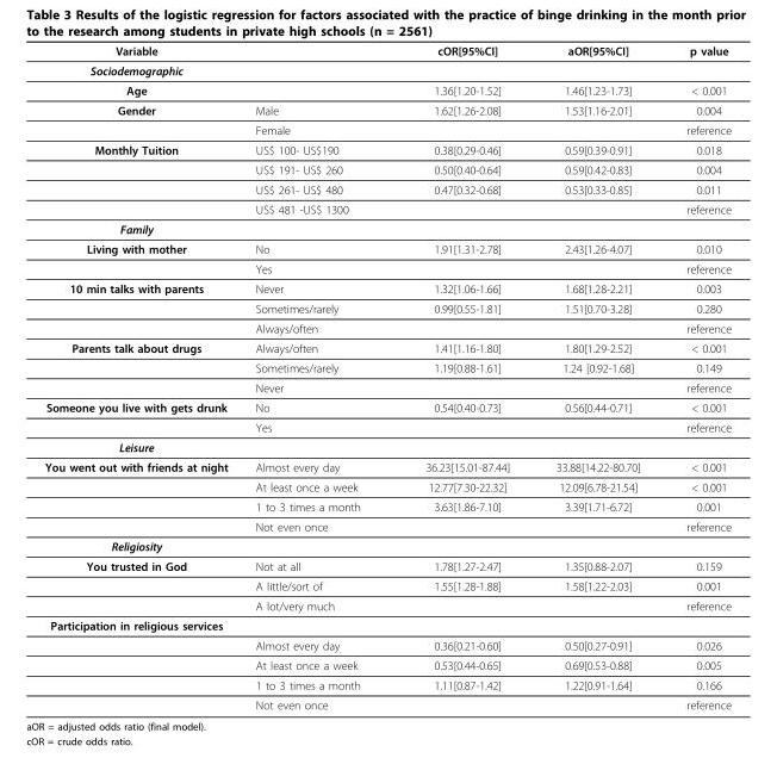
<table><thead><tr><td>Variable</td><td></td><td>cOR[95%CI]</td><td>aOR[95%CI]</td><td>p value</td></tr></thead><tbody><tr><td colspan="5">Sociodemographic</td></tr><tr><td>Age</td><td></td><td>1.36[1.20-1.52]</td><td>1.46[1.23-1.73]</td><td>&lt; 0.001</td></tr><tr><td rowspan="2">Gender</td><td>Male</td><td>1.62[1.26-2.08]</td><td>1.53[1.16-2.01]</td><td>0.004</td></tr><tr><td>Female</td><td></td><td></td><td>reference</td></tr><tr><td rowspan="4">Monthly Tuition</td><td>US$ 100- US$190</td><td>0.38[0.29-0.46]</td><td>0.59[0.39-0.91]</td><td>0.018</td></tr><tr><td>US$ 191- US$ 260</td><td>0.50[0.40-0.64]</td><td>0.59[0.42-0.83]</td><td>0.004</td></tr><tr><td>US$ 261- US$ 480</td><td>0.47[0.32-0.68]</td><td>0.53[0.33-0.85]</td><td>0.011</td></tr><tr><td>US$ 481 -US$ 1300</td><td></td><td></td><td>reference</td></tr><tr><td colspan="5">Family</td></tr><tr><td rowspan="2">Living with mother</td><td>No</td><td>1.91[1.31-2.78]</td><td>2.43[1.26-4.07]</td><td>0.010</td></tr><tr><td>Yes</td><td></td><td></td><td>reference</td></tr><tr><td rowspan="3">10 min talks with parents</td><td>Never</td><td>1.32[1.06-1.66]</td><td>1.68[1.28-2.21]</td><td>0.003</td></tr><tr><td>Sometimes/rarely</td><td>0.99[0.55-1.81]</td><td>1.51[0.70-3.28]</td><td>0.280</td></tr><tr><td>Always/often</td><td></td><td></td><td>reference</td></tr><tr><td rowspan="3">Parents talk about drugs</td><td>Always/often</td><td>1.41[1.16-1.80]</td><td>1.80[1.29-2.52]</td><td>&lt; 0.001</td></tr><tr><td>Sometimes/rarely</td><td>1.19[0.88-1.61]</td><td>1.24 [0.92-1.68]</td><td>0.149</td></tr><tr><td>Never</td><td></td><td></td><td>reference</td></tr><tr><td rowspan="2">Someone you live with gets drunk</td><td>No</td><td>0.54[0.40-0.73]</td><td>0.56[0.44-0.71]</td><td>&lt; 0.001</td></tr><tr><td>Yes</td><td></td><td></td><td>reference</td></tr><tr><td colspan="5">Leisure</td></tr><tr><td rowspan="4">You went out with friends at night</td><td>Almost every day</td><td>36.23[15.01-87.44]</td><td>33.88[14.22-80.70]</td><td>&lt; 0.001</td></tr><tr><td>At least once a week</td><td>12.77[7.30-22.32]</td><td>12.09[6.78-21.54]</td><td>&lt; 0.001</td></tr><tr><td>1 to 3 times a month</td><td>3.63[1.86-7.10]</td><td>3.39[1.71-6.72]</td><td>0.001</td></tr><tr><td>Not even once</td><td></td><td></td><td>reference</td></tr><tr><td colspan="5">Religiosity</td></tr><tr><td rowspan="3">You trusted in God</td><td>Not at all</td><td>1.78[1.27-2.47]</td><td>1.35[0.88-2.07]</td><td>0.159</td></tr><tr><td>A little/sort of</td><td>1.55[1.28-1.88]</td><td>1.58[1.22-2.03]</td><td>0.001</td></tr><tr><td>A lot/very much</td><td></td><td></td><td>reference</td></tr><tr><td colspan="5">Participation in religious services</td></tr><tr><td></td><td>Almost every day</td><td>0.36[0.21-0.60]</td><td>0.50[0.27-0.91]</td><td>0.026</td></tr><tr><td></td><td>At least once a week</td><td>0.53[0.44-0.65]</td><td>0.69[0.53-0.88]</td><td>0.005</td></tr><tr><td></td><td>1 to 3 times a month</td><td>1.11[0.87-1.42]</td><td>1.22[0.91-1.64]</td><td>0.166</td></tr><tr><td></td><td>Not even once</td><td></td><td></td><td>reference</td></tr></tbody></table>